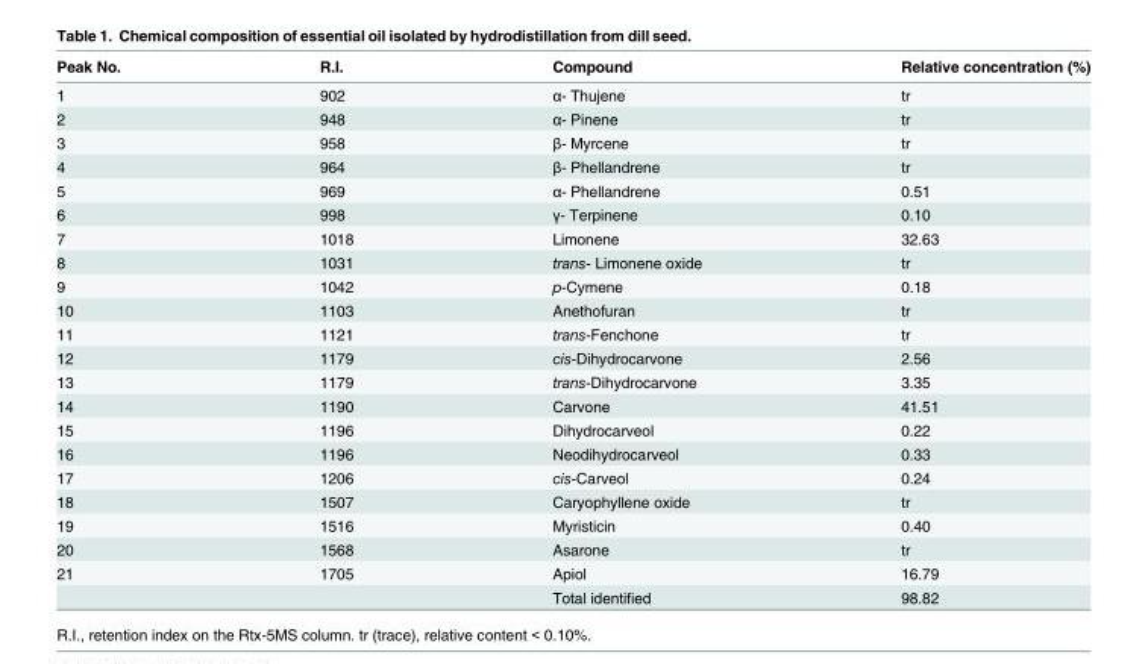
<table><thead><tr><td>Peak No.</td><td>R.I.</td><td>Compound</td><td>Relative concentration (%)</td></tr></thead><tbody><tr><td>1</td><td>902</td><td>α- Thujene</td><td>tr</td></tr><tr><td>2</td><td>948</td><td>α- Pinene</td><td>tr</td></tr><tr><td>3</td><td>958</td><td>β- Myrcene</td><td>tr</td></tr><tr><td>4</td><td>964</td><td>β- Phellandrene</td><td>tr</td></tr><tr><td>5</td><td>969</td><td>α- Phellandrene</td><td>0.51</td></tr><tr><td>6</td><td>998</td><td>γ- Terpinene</td><td>0.10</td></tr><tr><td>7</td><td>1018</td><td>Limonene</td><td>32.63</td></tr><tr><td>8</td><td>1031</td><td>trans- Limonene oxide</td><td>tr</td></tr><tr><td>9</td><td>1042</td><td>p-Cymene</td><td>0.18</td></tr><tr><td>10</td><td>1103</td><td>Anethofuran</td><td>tr</td></tr><tr><td>11</td><td>1121</td><td>trans-Fenchone</td><td>tr</td></tr><tr><td>12</td><td>1179</td><td>cis-Dihydrocarvone</td><td>2.56</td></tr><tr><td>13</td><td>1179</td><td>trans-Dihydrocarvone</td><td>3.35</td></tr><tr><td>14</td><td>1190</td><td>Carvone</td><td>41.51</td></tr><tr><td>15</td><td>1196</td><td>Dihydrocarveol</td><td>0.22</td></tr><tr><td>16</td><td>1196</td><td>Neodihydrocarveol</td><td>0.33</td></tr><tr><td>17</td><td>1206</td><td>cis-Carveol</td><td>0.24</td></tr><tr><td>18</td><td>1507</td><td>Caryophyllene oxide</td><td>tr</td></tr><tr><td>19</td><td>1516</td><td>Myristicin</td><td>0.40</td></tr><tr><td>20</td><td>1568</td><td>Asarone</td><td>tr</td></tr><tr><td rowspan="2">21</td><td>1705</td><td>Apiol</td><td>16.79</td></tr><tr><td></td><td>Total identified</td><td>98.82</td></tr></tbody></table>